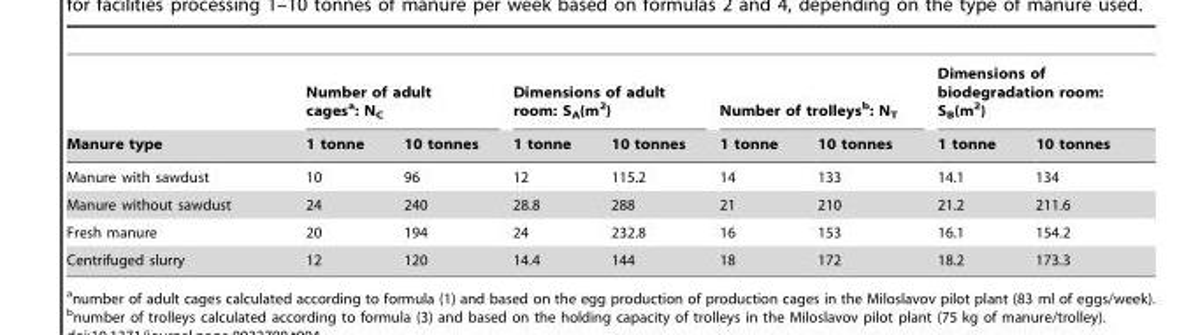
<table><thead><tr><td rowspan="2">Manure type</td><td colspan="2">Number of adult cages<sup>a</sup>: N<sub>C</sub></td><td colspan="2">Dimensions of adult room: S<sub>A</sub>(m<sup>2</sup>)</td><td colspan="2">Number of trolleys<sup>b</sup>: N<sub>T</sub></td><td colspan="2">Dimensions of biodegradation room: S<sub>B</sub>(m<sup>2</sup>)</td></tr><tr><td>1 tonne</td><td>10 tonnes</td><td>1 tonne</td><td>10 tonnes</td><td>1 tonne</td><td>10 tonnes</td><td>1 tonne</td><td>10 tonnes</td></tr></thead><tbody><tr><td>Manure with sawdust</td><td>10</td><td>96</td><td>12</td><td>115.2</td><td>14</td><td>133</td><td>14.1</td><td>134</td></tr><tr><td>Manure without sawdust</td><td>24</td><td>240</td><td>28.8</td><td>288</td><td>21</td><td>210</td><td>21.2</td><td>211.6</td></tr><tr><td>Fresh manure</td><td>20</td><td>194</td><td>24</td><td>232.8</td><td>16</td><td>153</td><td>16.1</td><td>154.2</td></tr><tr><td>Centrifuged slurry</td><td>12</td><td>120</td><td>14.4</td><td>144</td><td>18</td><td>172</td><td>18.2</td><td>173.3</td></tr></tbody></table>